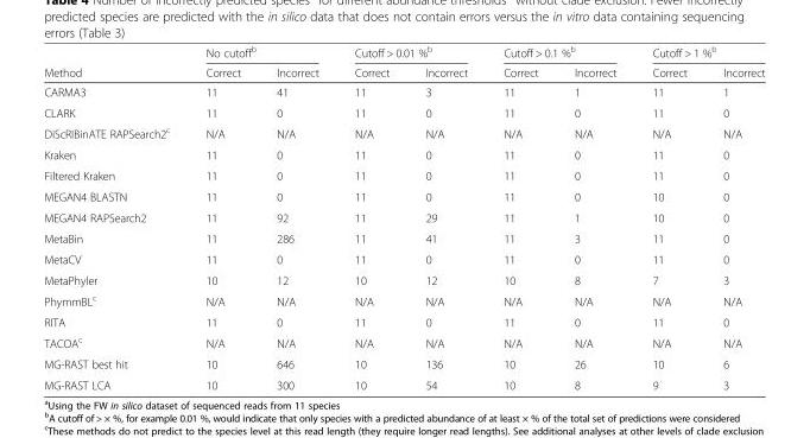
<table><thead><tr><td rowspan="2">Method</td><td colspan="2">No cutoff<sup>b</sup></td><td colspan="2">Cutoff &gt; 0.01 %<sup>b</sup></td><td colspan="2">Cutoff &gt; 0.1 %<sup>b</sup></td><td colspan="2">Cutoff &gt; 1 %<sup>b</sup></td></tr><tr><td>Correct</td><td>Incorrect</td><td>Correct</td><td>Incorrect</td><td>Correct</td><td>Incorrect</td><td>Correct</td><td>Incorrect</td></tr></thead><tbody><tr><td>CARMA3</td><td>11</td><td>41</td><td>11</td><td>3</td><td>11</td><td>1</td><td>11</td><td>1</td></tr><tr><td>CLARK</td><td>11</td><td>0</td><td>11</td><td>0</td><td>11</td><td>0</td><td>11</td><td>0</td></tr><tr><td>DiScRIBinATE RAPSearch2<sup>c</sup></td><td>N/A</td><td>N/A</td><td>N/A</td><td>N/A</td><td>N/A</td><td>N/A</td><td>N/A</td><td>N/A</td></tr><tr><td>Kraken</td><td>11</td><td>0</td><td>11</td><td>0</td><td>11</td><td>0</td><td>11</td><td>0</td></tr><tr><td>Filtered Kraken</td><td>11</td><td>0</td><td>11</td><td>0</td><td>11</td><td>0</td><td>11</td><td>0</td></tr><tr><td>MEGAN4 BLASTN</td><td>11</td><td>0</td><td>11</td><td>0</td><td>11</td><td>0</td><td>10</td><td>0</td></tr><tr><td>MEGAN4 RAPSearch2</td><td>11</td><td>92</td><td>11</td><td>29</td><td>11</td><td>1</td><td>10</td><td>0</td></tr><tr><td>MetaBin</td><td>11</td><td>286</td><td>11</td><td>41</td><td>11</td><td>3</td><td>11</td><td>0</td></tr><tr><td>MetaCV</td><td>11</td><td>0</td><td>11</td><td>0</td><td>11</td><td>0</td><td>11</td><td>0</td></tr><tr><td>MetaPhyler</td><td>10</td><td>12</td><td>10</td><td>12</td><td>10</td><td>8</td><td>7</td><td>3</td></tr><tr><td>PhymmBL<sup>c</sup></td><td>N/A</td><td>N/A</td><td>N/A</td><td>N/A</td><td>N/A</td><td>N/A</td><td>N/A</td><td>N/A</td></tr><tr><td>RITA</td><td>11</td><td>0</td><td>11</td><td>0</td><td>11</td><td>0</td><td>11</td><td>0</td></tr><tr><td>TACOA<sup>c</sup></td><td>N/A</td><td>N/A</td><td>N/A</td><td>N/A</td><td>N/A</td><td>N/A</td><td>N/A</td><td>N/A</td></tr><tr><td>MG-RAST best hit</td><td>10</td><td>646</td><td>10</td><td>136</td><td>10</td><td>26</td><td>10</td><td>6</td></tr><tr><td>MG-RAST LCA</td><td>10</td><td>300</td><td>10</td><td>54</td><td>10</td><td>8</td><td>9</td><td>3</td></tr></tbody></table>